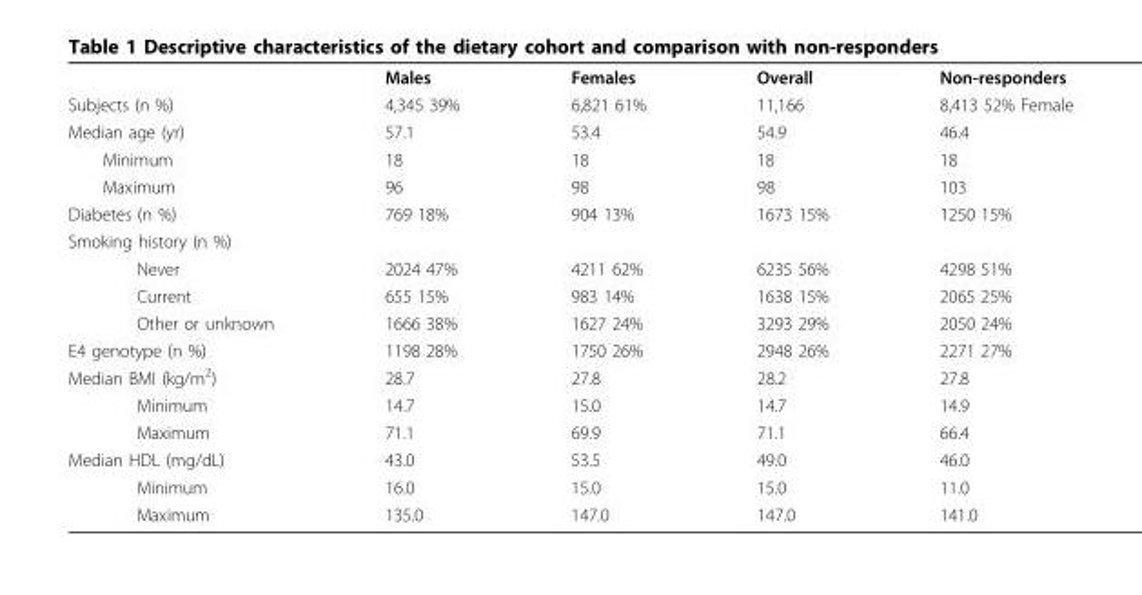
<table><thead><tr><td></td><td>Males</td><td>Females</td><td>Overall</td><td>Non-responders</td></tr></thead><tbody><tr><td>Subjects (n %)</td><td>4,345 39%</td><td>6,821 61%</td><td>11,166</td><td>8,413 52% Female</td></tr><tr><td>Median age (yr)</td><td>57.1</td><td>53.4</td><td>54.9</td><td>46.4</td></tr><tr><td>Minimum</td><td>18</td><td>18</td><td>18</td><td>18</td></tr><tr><td>Maximum</td><td>96</td><td>98</td><td>98</td><td>103</td></tr><tr><td>Diabetes (n %)</td><td>769 18%</td><td>904 13%</td><td>1673 15%</td><td>1250 15%</td></tr><tr><td colspan="5">Smoking history (n %)</td></tr><tr><td>Never</td><td>2024 47%</td><td>4211 62%</td><td>6235 56%</td><td>4298 51%</td></tr><tr><td>Current</td><td>655 15%</td><td>983 14%</td><td>1638 15%</td><td>2065 25%</td></tr><tr><td>Other or unknown</td><td>1666 38%</td><td>1627 24%</td><td>3293 29%</td><td>2050 24%</td></tr><tr><td>E4 genotype (n %)</td><td>1198 28%</td><td>1750 26%</td><td>2948 26%</td><td>2271 27%</td></tr><tr><td>Median BMI (kg/m<sup>2</sup>)</td><td>28.7</td><td>27.8</td><td>28.2</td><td>27.8</td></tr><tr><td>Minimum</td><td>14.7</td><td>15.0</td><td>14.7</td><td>14.9</td></tr><tr><td>Maximum</td><td>71.1</td><td>69.9</td><td>71.1</td><td>66.4</td></tr><tr><td>Median HDL (mg/dL)</td><td>43.0</td><td>53.5</td><td>49.0</td><td>46.0</td></tr><tr><td>Minimum</td><td>16.0</td><td>15.0</td><td>15.0</td><td>11.0</td></tr><tr><td>Maximum</td><td>135.0</td><td>147.0</td><td>147.0</td><td>141.0</td></tr></tbody></table>